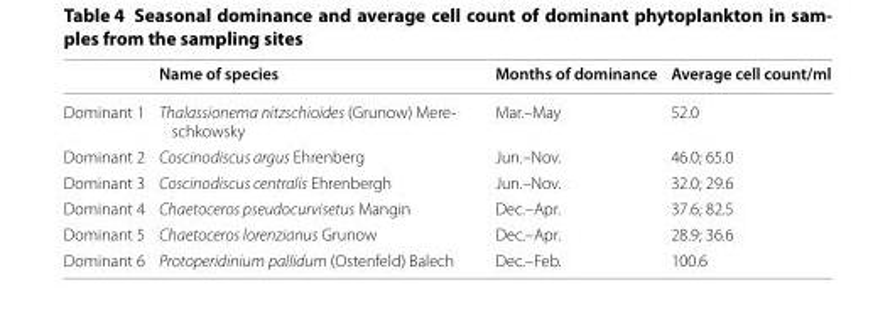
<table><thead><tr><td></td><td>Name of species</td><td>Months of dominance</td><td>Average cell count/ml</td></tr></thead><tbody><tr><td>Dominant 1</td><td>Thalassionema nitzschioides (Grunow) Mere- schkowsky</td><td>Mar.–May</td><td>52.0</td></tr><tr><td>Dominant 2</td><td>Coscinodiscus argus Ehrenberg</td><td>Jun.–Nov.</td><td>46.0; 65.0</td></tr><tr><td>Dominant 3</td><td>Coscinodiscus centralis Ehrenbergh</td><td>Jun.–Nov.</td><td>32.0; 29.6</td></tr><tr><td>Dominant 4</td><td>Chaetoceros pseudocurvisetus Mangin</td><td>Dec.–Apr.</td><td>37.6; 82.5</td></tr><tr><td>Dominant 5</td><td>Chaetoceros lorenzianus Grunow</td><td>Dec.–Apr.</td><td>28.9; 36.6</td></tr><tr><td>Dominant 6</td><td>Protoperidinium pallidum (Ostenfeld) Balech</td><td>Dec.–Feb.</td><td>100.6</td></tr></tbody></table>